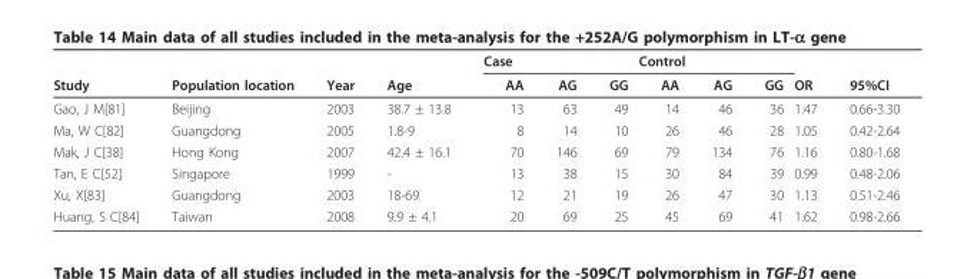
<table><thead><tr><td rowspan="2">Study</td><td rowspan="2">Population location</td><td rowspan="2">Year</td><td rowspan="2">Age</td><td colspan="3">Case</td><td colspan="3">Control</td><td rowspan="2">OR</td><td rowspan="2">95%CI</td></tr><tr><td>AA</td><td>AG</td><td>GG</td><td>AA</td><td>AG</td><td>GG</td></tr></thead><tbody><tr><td>Gao, J M[81]</td><td>Beijing</td><td>2003</td><td>38.7 ± 13.8</td><td>13</td><td>63</td><td>49</td><td>14</td><td>46</td><td>36</td><td>1.47</td><td>0.66-3.30</td></tr><tr><td>Ma, W C[82]</td><td>Guangdong</td><td>2005</td><td>1.8-9</td><td>8</td><td>14</td><td>10</td><td>26</td><td>46</td><td>28</td><td>1.05</td><td>0.42-2.64</td></tr><tr><td>Mak, J C[38]</td><td>Hong Kong</td><td>2007</td><td>42.4 ± 16.1</td><td>70</td><td>146</td><td>69</td><td>79</td><td>134</td><td>76</td><td>1.16</td><td>0.80-1.68</td></tr><tr><td>Tan, E C[52]</td><td>Singapore</td><td>1999</td><td>-</td><td>13</td><td>38</td><td>15</td><td>30</td><td>84</td><td>39</td><td>0.99</td><td>0.48-2.06</td></tr><tr><td>Xu, X[83]</td><td>Guangdong</td><td>2003</td><td>18-69</td><td>12</td><td>21</td><td>19</td><td>26</td><td>47</td><td>30</td><td>1.13</td><td>0.51-2.46</td></tr><tr><td>Huang, S C[84]</td><td>Taiwan</td><td>2008</td><td>9.9 ± 4.1</td><td>20</td><td>69</td><td>25</td><td>45</td><td>69</td><td>41</td><td>1.62</td><td>0.98-2.66</td></tr></tbody></table>